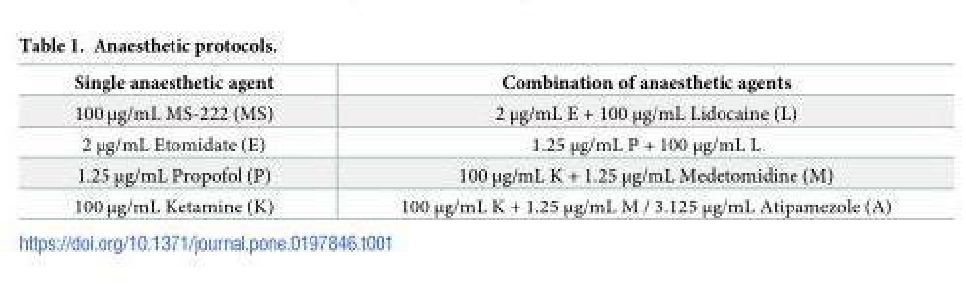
<table><thead><tr><td>Single anaesthetic agent</td><td>Combination of anaesthetic agents</td></tr></thead><tbody><tr><td>100 μg/mL MS-222 (MS)</td><td>2 μg/mL E + 100 μg/mL Lidocaine (L)</td></tr><tr><td>2 μg/mL Etomidate (E)</td><td>1.25 μg/mL P + 100 μg/mL L</td></tr><tr><td>1.25 μg/mL Propofol (P)</td><td>100 μg/mL K + 1.25 μg/mL Medetomidine (M)</td></tr><tr><td>100 μg/mL Ketamine (K)</td><td>100 μg/mL K + 1.25 μg/mL M / 3.125 μg/mL Atipamezole (A)</td></tr></tbody></table>